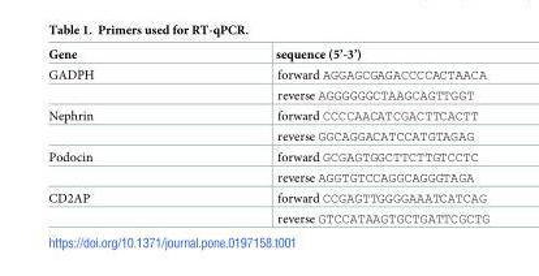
<table><thead><tr><td>Gene</td><td>sequence (5’-3’)</td></tr></thead><tbody><tr><td rowspan="2">GADPH</td><td>forward AGGAGCGAGACCCCACTAACA</td></tr><tr><td>reverse AGGGGGGCTAAGCAGTTGGT</td></tr><tr><td rowspan="2">Nephrin</td><td>forward CCCCAACATCGACTTCACTT</td></tr><tr><td>reverse GGCAGGACATCCATGTAGAG</td></tr><tr><td rowspan="2">Podocin</td><td>forward GCGAGTGGCTTCTTGTCCTC</td></tr><tr><td>reverse AGGTGTCCAGGCAGGGTAGA</td></tr><tr><td rowspan="2">CD2AP</td><td>forward CCGAGTTGGGGAAATCATCAG</td></tr><tr><td>reverse GTCCATAAGTGCTGATTCGCTG</td></tr></tbody></table>